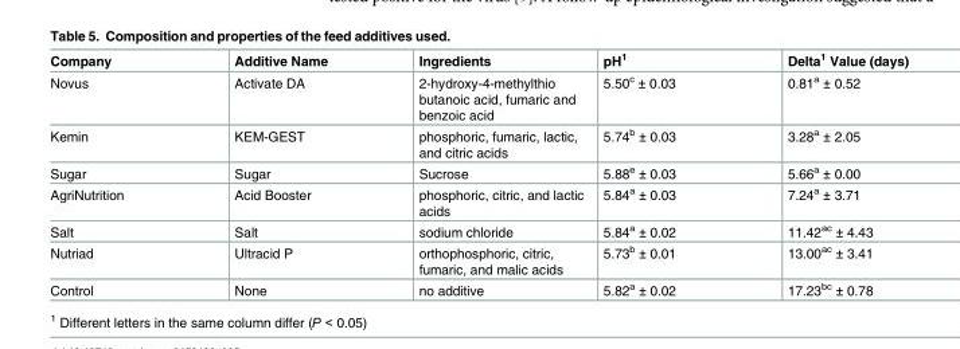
<table><thead><tr><td>Company</td><td>Additive Name</td><td>Ingredients</td><td>pH<sup>1</sup></td><td>Delta<sup>1</sup> Value (days)</td></tr></thead><tbody><tr><td>Novus</td><td>Activate DA</td><td>2-hydroxy-4-methylthio butanoic acid, fumaric and benzoic acid</td><td>5.50<sup>c</sup> ± 0.03</td><td>0.81<sup>a</sup> ± 0.52</td></tr><tr><td>Kemin</td><td>KEM-GEST</td><td>phosphoric, fumaric, lactic, and citric acids</td><td>5.74<sup>b</sup> ± 0.03</td><td>3.28<sup>a</sup> ± 2.05</td></tr><tr><td>Sugar</td><td>Sugar</td><td>Sucrose</td><td>5.88<sup>e</sup> ± 0.03</td><td>5.66<sup>a</sup> ± 0.00</td></tr><tr><td>AgriNutrition</td><td>Acid Booster</td><td>phosphoric, citric, and lactic acids</td><td>5.84<sup>a</sup> ± 0.03</td><td>7.24<sup>a</sup> ± 3.71</td></tr><tr><td>Salt</td><td>Salt</td><td>sodium chloride</td><td>5.84<sup>a</sup> ± 0.02</td><td>11.42<sup>ac</sup> ± 4.43</td></tr><tr><td>Nutriad</td><td>Ultracid P</td><td>orthophosphoric, citric, fumaric, and malic acids</td><td>5.73<sup>b</sup> ± 0.01</td><td>13.00<sup>ac</sup> ± 3.41</td></tr><tr><td>Control</td><td>None</td><td>no additive</td><td>5.82<sup>a</sup> ± 0.02</td><td>17.23<sup>bc</sup> ± 0.78</td></tr></tbody></table>